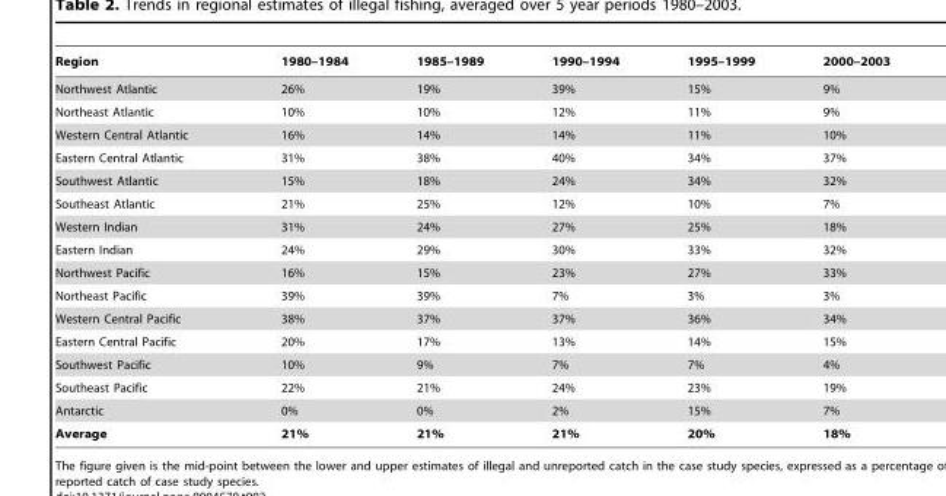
<table><thead><tr><td>Region</td><td>1980–1984</td><td>1985–1989</td><td>1990–1994</td><td>1995–1999</td><td>2000–2003</td></tr></thead><tbody><tr><td>Northwest Atlantic</td><td>26%</td><td>19%</td><td>39%</td><td>15%</td><td>9%</td></tr><tr><td>Northeast Atlantic</td><td>10%</td><td>10%</td><td>12%</td><td>11%</td><td>9%</td></tr><tr><td>Western Central Atlantic</td><td>16%</td><td>14%</td><td>14%</td><td>11%</td><td>10%</td></tr><tr><td>Eastern Central Atlantic</td><td>31%</td><td>38%</td><td>40%</td><td>34%</td><td>37%</td></tr><tr><td>Southwest Atlantic</td><td>15%</td><td>18%</td><td>24%</td><td>34%</td><td>32%</td></tr><tr><td>Southeast Atlantic</td><td>21%</td><td>25%</td><td>12%</td><td>10%</td><td>7%</td></tr><tr><td>Western Indian</td><td>31%</td><td>24%</td><td>27%</td><td>25%</td><td>18%</td></tr><tr><td>Eastern Indian</td><td>24%</td><td>29%</td><td>30%</td><td>33%</td><td>32%</td></tr><tr><td>Northwest Pacific</td><td>16%</td><td>15%</td><td>23%</td><td>27%</td><td>33%</td></tr><tr><td>Northeast Pacific</td><td>39%</td><td>39%</td><td>7%</td><td>3%</td><td>3%</td></tr><tr><td>Western Central Pacific</td><td>38%</td><td>37%</td><td>37%</td><td>36%</td><td>34%</td></tr><tr><td>Eastern Central Pacific</td><td>20%</td><td>17%</td><td>13%</td><td>14%</td><td>15%</td></tr><tr><td>Southwest Pacific</td><td>10%</td><td>9%</td><td>7%</td><td>7%</td><td>4%</td></tr><tr><td>Southeast Pacific</td><td>22%</td><td>21%</td><td>24%</td><td>23%</td><td>19%</td></tr><tr><td>Antarctic</td><td>0%</td><td>0%</td><td>2%</td><td>15%</td><td>7%</td></tr><tr><td>Average</td><td>21%</td><td>21%</td><td>21%</td><td>20%</td><td>18%</td></tr></tbody></table>